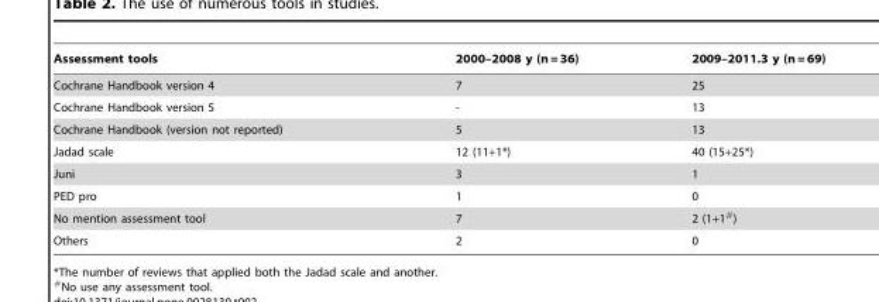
<table><thead><tr><td>Assessment tools</td><td>2000–2008 y (n = 36)</td><td>2009–2011.3 y (n = 69)</td></tr></thead><tbody><tr><td>Cochrane Handbook version 4</td><td>7</td><td>25</td></tr><tr><td>Cochrane Handbook version 5</td><td>-</td><td>13</td></tr><tr><td>Cochrane Handbook (version not reported)</td><td>5</td><td>13</td></tr><tr><td>Jadad scale</td><td>12 (11+1*)</td><td>40 (15+25*)</td></tr><tr><td>Juni</td><td>3</td><td>1</td></tr><tr><td>PED pro</td><td>1</td><td>0</td></tr><tr><td>No mention assessment tool</td><td>7</td><td>2 (1+1#)</td></tr><tr><td>Others</td><td>2</td><td>0</td></tr></tbody></table>